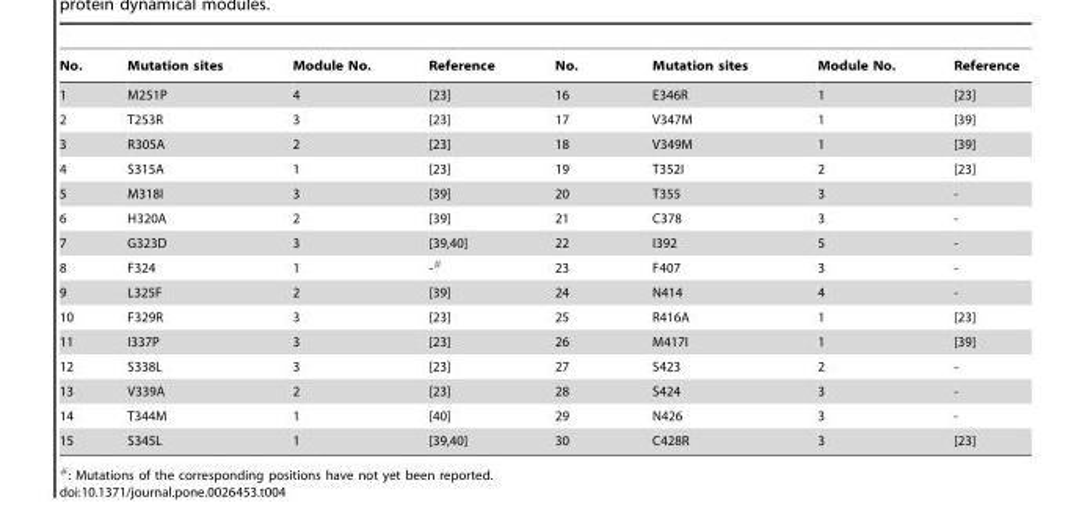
<table><thead><tr><td>No.</td><td>Mutation sites</td><td>Module No.</td><td>Reference</td><td>No.</td><td>Mutation sites</td><td>Module No.</td><td>Reference</td></tr></thead><tbody><tr><td>1</td><td>M251P</td><td>4</td><td>[23]</td><td>16</td><td>E346R</td><td>1</td><td>[23]</td></tr><tr><td>2</td><td>T253R</td><td>3</td><td>[23]</td><td>17</td><td>V347M</td><td>1</td><td>[39]</td></tr><tr><td>3</td><td>R305A</td><td>2</td><td>[23]</td><td>18</td><td>V349M</td><td>1</td><td>[39]</td></tr><tr><td>4</td><td>S315A</td><td>1</td><td>[23]</td><td>19</td><td>T352I</td><td>2</td><td>[23]</td></tr><tr><td>5</td><td>M318I</td><td>3</td><td>[39]</td><td>20</td><td>T355</td><td>3</td><td>-</td></tr><tr><td>6</td><td>H320A</td><td>2</td><td>[39]</td><td>21</td><td>C378</td><td>3</td><td>-</td></tr><tr><td>7</td><td>G323D</td><td>3</td><td>[39,40]</td><td>22</td><td>I392</td><td>5</td><td>-</td></tr><tr><td>8</td><td>F324</td><td>1</td><td>-#</td><td>23</td><td>F407</td><td>3</td><td>-</td></tr><tr><td>9</td><td>L325F</td><td>2</td><td>[39]</td><td>24</td><td>N414</td><td>4</td><td>-</td></tr><tr><td>10</td><td>F329R</td><td>3</td><td>[23]</td><td>25</td><td>R416A</td><td>1</td><td>[23]</td></tr><tr><td>11</td><td>I337P</td><td>3</td><td>[23]</td><td>26</td><td>M417I</td><td>1</td><td>[39]</td></tr><tr><td>12</td><td>S338L</td><td>3</td><td>[23]</td><td>27</td><td>S423</td><td>2</td><td>-</td></tr><tr><td>13</td><td>V339A</td><td>2</td><td>[23]</td><td>28</td><td>S424</td><td>3</td><td>-</td></tr><tr><td>14</td><td>T344M</td><td>1</td><td>[40]</td><td>29</td><td>N426</td><td>3</td><td>-</td></tr><tr><td>15</td><td>S345L</td><td>1</td><td>[39,40]</td><td>30</td><td>C428R</td><td>3</td><td>[23]</td></tr></tbody></table>